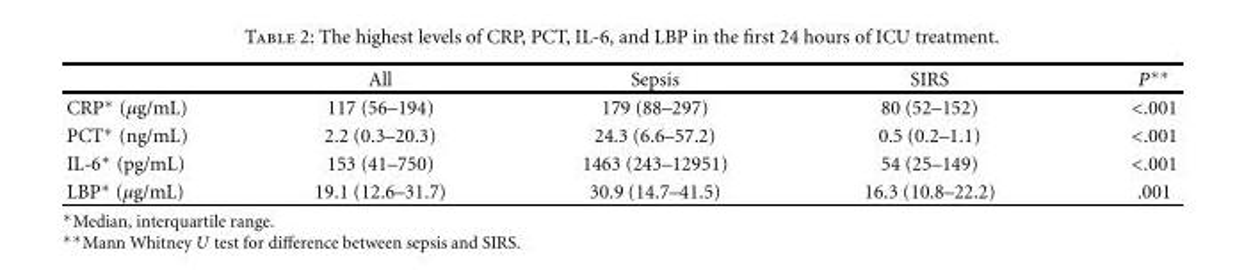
<table><thead><tr><td></td><td>All</td><td>Sepsis</td><td>SIRS</td><td>P∗∗</td></tr></thead><tbody><tr><td>CRP∗ (μg/mL)</td><td>117 (56–194)</td><td>179 (88–297)</td><td>80 (52–152)</td><td>&lt;.001</td></tr><tr><td>PCT∗ (ng/mL)</td><td>2.2 (0.3–20.3)</td><td>24.3 (6.6–57.2)</td><td>0.5 (0.2–1.1)</td><td>&lt;.001</td></tr><tr><td>IL-6∗ (pg/mL)</td><td>153 (41–750)</td><td>1463 (243–12951)</td><td>54 (25–149)</td><td>&lt;.001</td></tr><tr><td>LBP∗ (μg/mL)</td><td>19.1 (12.6–31.7)</td><td>30.9 (14.7–41.5)</td><td>16.3 (10.8–22.2)</td><td>.001</td></tr></tbody></table>